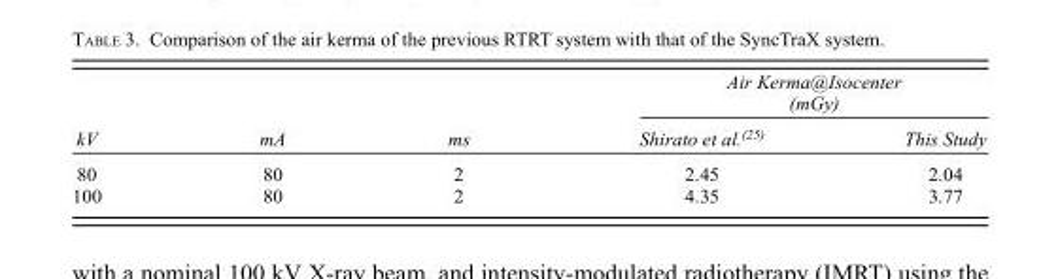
<table><thead><tr><td rowspan="2">kV</td><td rowspan="2">mA</td><td rowspan="2">ms</td><td rowspan="2">Air Kerma@Isocenter (mGy) Shirato et al.<sup>(25)</sup></td><td rowspan="2">This Study</td></tr><tr></tr></thead><tbody><tr><td>80</td><td>80</td><td>2</td><td>2.45</td><td>2.04</td></tr><tr><td>100</td><td>80</td><td>2</td><td>4.35</td><td>3.77</td></tr></tbody></table>